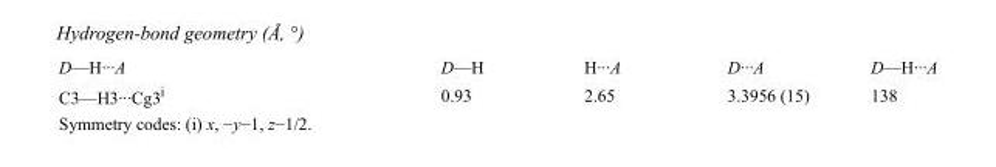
<table><tbody><tr><td>D—H···A</td><td>D—H</td><td>H···A</td><td>D···A</td><td>D—H···A</td></tr><tr><td>C3—H3···Cg3<sup>i</sup></td><td>0.93</td><td>2.65</td><td>3.3956 (15)</td><td>138</td></tr></tbody></table>